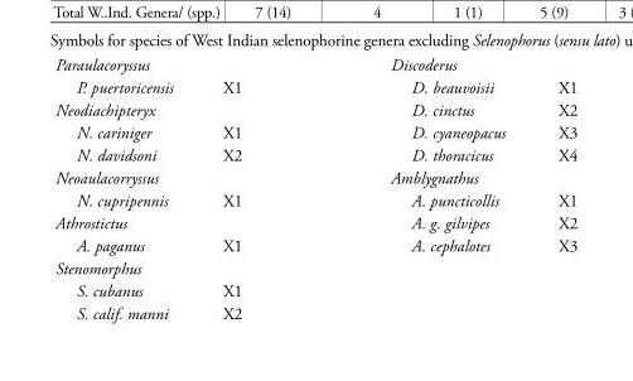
<table><tbody><tr><td>Paraulacoryssus</td><td></td><td>Discoderus</td><td></td></tr><tr><td>P. puertoricensis</td><td>X1</td><td>D. beauvoisii</td><td>X1</td></tr><tr><td>Neodiachipteryx</td><td></td><td>D. cinctus</td><td>X2</td></tr><tr><td>N. cariniger</td><td>X1</td><td>D. cyaneopacus</td><td>X3</td></tr><tr><td>N. davidsoni</td><td>X2</td><td>D. thoracicus</td><td>X4</td></tr><tr><td>Neoaulacorryssus</td><td></td><td>Amblygnathus</td><td></td></tr><tr><td>N. cupripennis</td><td>X1</td><td>A. puncticollis</td><td>X1</td></tr><tr><td>Athrostictus</td><td></td><td>A. g. gilvipes</td><td>X2</td></tr><tr><td>A. paganus</td><td>X1</td><td>A. cephalotes</td><td>X3</td></tr><tr><td colspan="4">Stenomorphus</td></tr><tr><td>S. cubanus</td><td>X1</td><td></td><td></td></tr><tr><td>S. calif. manni</td><td>X2</td><td></td><td></td></tr></tbody></table>